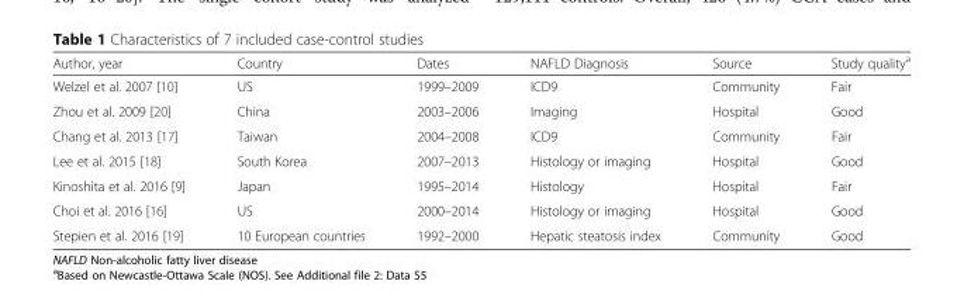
<table><thead><tr><td>Author, year</td><td>Country</td><td>Dates</td><td>NAFLD Diagnosis</td><td>Source</td><td>Study quality<sup>a</sup></td></tr></thead><tbody><tr><td>Welzel et al. 2007 [10]</td><td>US</td><td>1999–2009</td><td>ICD9</td><td>Community</td><td>Fair</td></tr><tr><td>Zhou et al. 2009 [20]</td><td>China</td><td>2003–2006</td><td>Imaging</td><td>Hospital</td><td>Good</td></tr><tr><td>Chang et al. 2013 [17]</td><td>Taiwan</td><td>2004–2008</td><td>ICD9</td><td>Community</td><td>Fair</td></tr><tr><td>Lee et al. 2015 [18]</td><td>South Korea</td><td>2007–2013</td><td>Histology or imaging</td><td>Hospital</td><td>Good</td></tr><tr><td>Kinoshita et al. 2016 [9]</td><td>Japan</td><td>1995–2014</td><td>Histology</td><td>Hospital</td><td>Fair</td></tr><tr><td>Choi et al. 2016 [16]</td><td>US</td><td>2000–2014</td><td>Histology or imaging</td><td>Hospital</td><td>Good</td></tr><tr><td>Stepien et al. 2016 [19]</td><td>10 European countries</td><td>1992–2000</td><td>Hepatic steatosis index</td><td>Community</td><td>Good</td></tr></tbody></table>